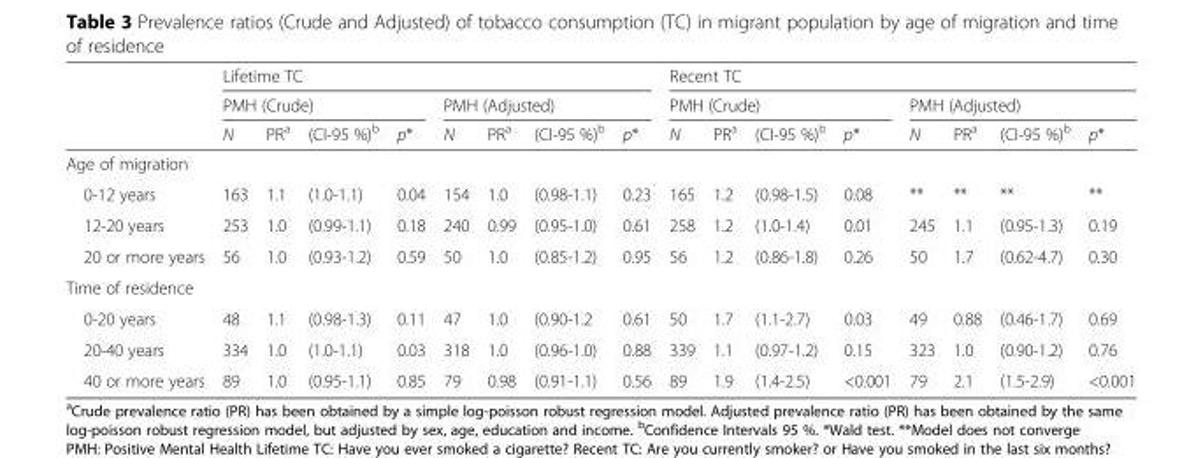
<table><thead><tr><td rowspan="3"></td><td colspan="8">Lifetime TC</td><td colspan="8">Recent TC</td></tr><tr><td colspan="4">PMH (Crude)</td><td colspan="4">PMH (Adjusted)</td><td colspan="4">PMH (Crude)</td><td colspan="4">PMH (Adjusted)</td></tr><tr><td>N</td><td>PR<sup>a</sup></td><td>(CI-95 %)<sup>b</sup></td><td>p*</td><td>N</td><td>PR<sup>a</sup></td><td>(CI-95 %)<sup>b</sup></td><td>p*</td><td>N</td><td>PR<sup>a</sup></td><td>(CI-95 %)<sup>b</sup></td><td>p*</td><td>N</td><td>PR<sup>a</sup></td><td>(CI-95 %)<sup>b</sup></td><td>p*</td></tr></thead><tbody><tr><td colspan="17">Age of migration</td></tr><tr><td>0-12 years</td><td>163</td><td>1.1</td><td>(1.0-1.1)</td><td>0.04</td><td>154</td><td>1.0</td><td>(0.98-1.1)</td><td>0.23</td><td>165</td><td>1.2</td><td>(0.98-1.5)</td><td>0.08</td><td>**</td><td>**</td><td>**</td><td>**</td></tr><tr><td>12-20 years</td><td>253</td><td>1.0</td><td>(0.99-1.1)</td><td>0.18</td><td>240</td><td>0.99</td><td>(0.95-1.0)</td><td>0.61</td><td>258</td><td>1.2</td><td>(1.0-1.4)</td><td>0.01</td><td>245</td><td>1.1</td><td>(0.95-1.3)</td><td>0.19</td></tr><tr><td>20 or more years</td><td>56</td><td>1.0</td><td>(0.93-1.2)</td><td>0.59</td><td>50</td><td>1.0</td><td>(0.85-1.2)</td><td>0.95</td><td>56</td><td>1.2</td><td>(0.86-1.8)</td><td>0.26</td><td>50</td><td>1.7</td><td>(0.62-4.7)</td><td>0.30</td></tr><tr><td colspan="17">Time of residence</td></tr><tr><td>0-20 years</td><td>48</td><td>1.1</td><td>(0.98-1.3)</td><td>0.11</td><td>47</td><td>1.0</td><td>(0.90-1.2</td><td>0.61</td><td>50</td><td>1.7</td><td>(1.1-2.7)</td><td>0.03</td><td>49</td><td>0.88</td><td>(0.46-1.7)</td><td>0.69</td></tr><tr><td>20-40 years</td><td>334</td><td>1.0</td><td>(1.0-1.1)</td><td>0.03</td><td>318</td><td>1.0</td><td>(0.96-1.0)</td><td>0.88</td><td>339</td><td>1.1</td><td>(0.97-1.2)</td><td>0.15</td><td>323</td><td>1.0</td><td>(0.90-1.2)</td><td>0.76</td></tr><tr><td>40 or more years</td><td>89</td><td>1.0</td><td>(0.95-1.1)</td><td>0.85</td><td>79</td><td>0.98</td><td>(0.91-1.1)</td><td>0.56</td><td>89</td><td>1.9</td><td>(1.4-2.5)</td><td>&lt;0.001</td><td>79</td><td>2.1</td><td>(1.5-2.9)</td><td>&lt;0.001</td></tr></tbody></table>